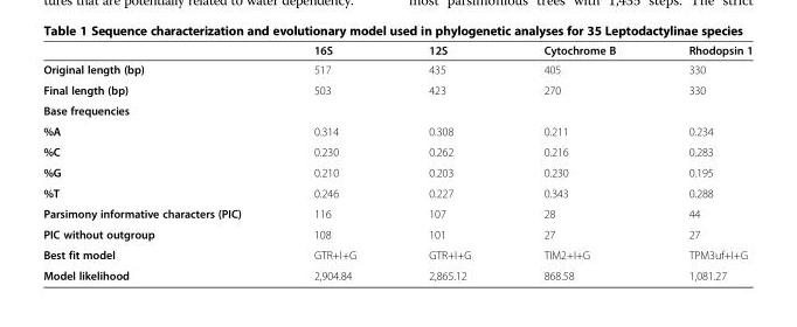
<table><thead><tr><td></td><td>16S</td><td>12S</td><td>Cytochrome B</td><td>Rhodopsin 1</td></tr></thead><tbody><tr><td>Original length (bp)</td><td>517</td><td>435</td><td>405</td><td>330</td></tr><tr><td>Final length (bp)</td><td>503</td><td>423</td><td>270</td><td>330</td></tr><tr><td colspan="5">Base frequencies</td></tr><tr><td>%A</td><td>0.314</td><td>0.308</td><td>0.211</td><td>0.234</td></tr><tr><td>%C</td><td>0.230</td><td>0.262</td><td>0.216</td><td>0.283</td></tr><tr><td>%G</td><td>0.210</td><td>0.203</td><td>0.230</td><td>0.195</td></tr><tr><td>%T</td><td>0.246</td><td>0.227</td><td>0.343</td><td>0.288</td></tr><tr><td>Parsimony informative characters (PIC)</td><td>116</td><td>107</td><td>28</td><td>44</td></tr><tr><td>PIC without outgroup</td><td>108</td><td>101</td><td>27</td><td>27</td></tr><tr><td>Best fit model</td><td>GTR+I+G</td><td>GTR+I+G</td><td>TIM2+I+G</td><td>TPM3uf+I+G</td></tr><tr><td>Model likelihood</td><td>2,904.84</td><td>2,865.12</td><td>868.58</td><td>1,081.27</td></tr></tbody></table>